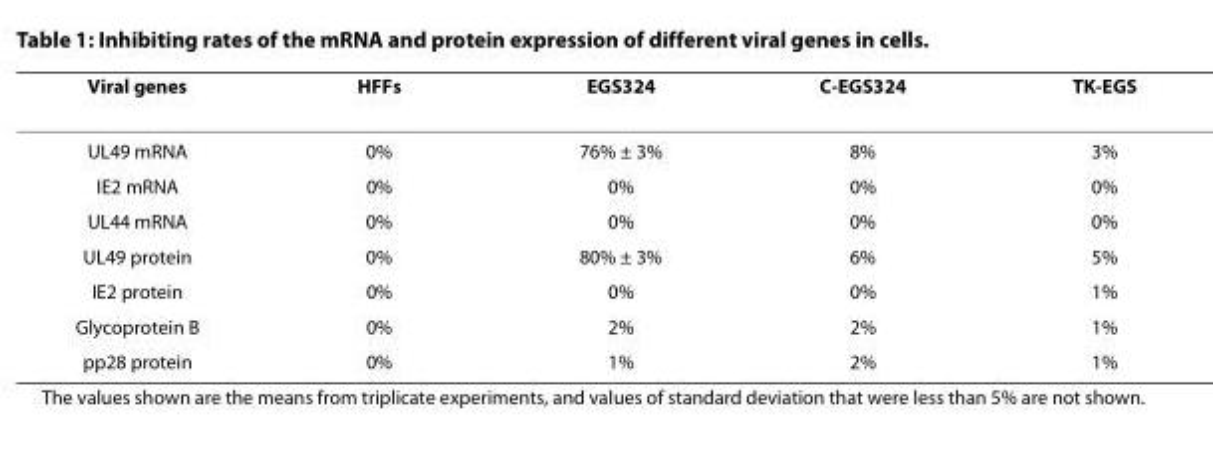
<table><thead><tr><td>Viral genes</td><td>HFFs</td><td>EGS324</td><td>C-EGS324</td><td>TK-EGS</td></tr></thead><tbody><tr><td>UL49 mRNA</td><td>0%</td><td>76% ± 3%</td><td>8%</td><td>3%</td></tr><tr><td>IE2 mRNA</td><td>0%</td><td>0%</td><td>0%</td><td>0%</td></tr><tr><td>UL44 mRNA</td><td>0%</td><td>0%</td><td>0%</td><td>0%</td></tr><tr><td>UL49 protein</td><td>0%</td><td>80% ± 3%</td><td>6%</td><td>5%</td></tr><tr><td>IE2 protein</td><td>0%</td><td>0%</td><td>0%</td><td>1%</td></tr><tr><td>Glycoprotein B</td><td>0%</td><td>2%</td><td>2%</td><td>1%</td></tr><tr><td>pp28 protein</td><td>0%</td><td>1%</td><td>2%</td><td>1%</td></tr></tbody></table>